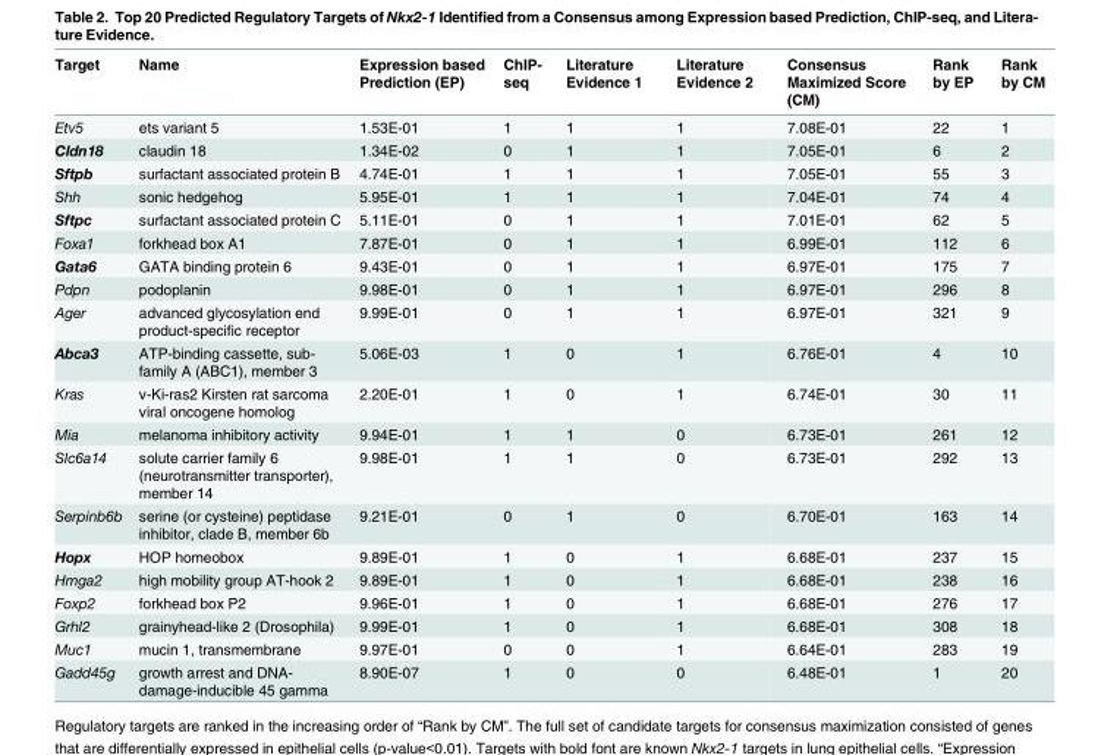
<table><thead><tr><td>Target</td><td>Name</td><td>Expression based Prediction (EP)</td><td>ChIP- seq</td><td>Literature Evidence 1</td><td>Literature Evidence 2</td><td>Consensus Maximized Score (CM)</td><td>Rank by EP</td><td>Rank by CM</td></tr></thead><tbody><tr><td>Etv5</td><td>ets variant 5</td><td>1.53E-01</td><td>1</td><td>1</td><td>1</td><td>7.08E-01</td><td>22</td><td>1</td></tr><tr><td>Cldn18</td><td>claudin 18</td><td>1.34E-02</td><td>0</td><td>1</td><td>1</td><td>7.05E-01</td><td>6</td><td>2</td></tr><tr><td>Sftpb</td><td>surfactant associated protein B</td><td>4.74E-01</td><td>1</td><td>1</td><td>1</td><td>7.05E-01</td><td>55</td><td>3</td></tr><tr><td>Shh</td><td>sonic hedgehog</td><td>5.95E-01</td><td>1</td><td>1</td><td>1</td><td>7.04E-01</td><td>74</td><td>4</td></tr><tr><td>Sftpc</td><td>surfactant associated protein C</td><td>5.11E-01</td><td>0</td><td>1</td><td>1</td><td>7.01E-01</td><td>62</td><td>5</td></tr><tr><td>Foxa1</td><td>forkhead box A1</td><td>7.87E-01</td><td>0</td><td>1</td><td>1</td><td>6.99E-01</td><td>112</td><td>6</td></tr><tr><td>Gata6</td><td>GATA binding protein 6</td><td>9.43E-01</td><td>0</td><td>1</td><td>1</td><td>6.97E-01</td><td>175</td><td>7</td></tr><tr><td>Pdpn</td><td>podoplanin</td><td>9.98E-01</td><td>0</td><td>1</td><td>1</td><td>6.97E-01</td><td>296</td><td>8</td></tr><tr><td>Ager</td><td>advanced glycosylation end product-specific receptor</td><td>9.99E-01</td><td>0</td><td>1</td><td>1</td><td>6.97E-01</td><td>321</td><td>9</td></tr><tr><td>Abca3</td><td>ATP-binding cassette, sub- family A (ABC1), member 3</td><td>5.06E-03</td><td>1</td><td>0</td><td>1</td><td>6.76E-01</td><td>4</td><td>10</td></tr><tr><td>Kras</td><td>v-Ki-ras2 Kirsten rat sarcoma viral oncogene homolog</td><td>2.20E-01</td><td>1</td><td>0</td><td>1</td><td>6.74E-01</td><td>30</td><td>11</td></tr><tr><td>Mia</td><td>melanoma inhibitory activity</td><td>9.94E-01</td><td>1</td><td>1</td><td>0</td><td>6.73E-01</td><td>261</td><td>12</td></tr><tr><td>Slc6a14</td><td>solute carrier family 6 (neurotransmitter transporter), member 14</td><td>9.98E-01</td><td>1</td><td>1</td><td>0</td><td>6.73E-01</td><td>292</td><td>13</td></tr><tr><td>Serpinb6b</td><td>serine (or cysteine) peptidase inhibitor, clade B, member 6b</td><td>9.21E-01</td><td>0</td><td>1</td><td>0</td><td>6.70E-01</td><td>163</td><td>14</td></tr><tr><td>Hopx</td><td>HOP homeobox</td><td>9.89E-01</td><td>1</td><td>0</td><td>1</td><td>6.68E-01</td><td>237</td><td>15</td></tr><tr><td>Hmga2</td><td>high mobility group AT-hook 2</td><td>9.89E-01</td><td>1</td><td>0</td><td>1</td><td>6.68E-01</td><td>238</td><td>16</td></tr><tr><td>Foxp2</td><td>forkhead box P2</td><td>9.96E-01</td><td>1</td><td>0</td><td>1</td><td>6.68E-01</td><td>276</td><td>17</td></tr><tr><td>Grhl2</td><td>grainyhead-like 2 (Drosophila)</td><td>9.99E-01</td><td>1</td><td>0</td><td>1</td><td>6.68E-01</td><td>308</td><td>18</td></tr><tr><td>Muc1</td><td>mucin 1, transmembrane</td><td>9.97E-01</td><td>0</td><td>0</td><td>1</td><td>6.64E-01</td><td>283</td><td>19</td></tr><tr><td>Gadd45g</td><td>growth arrest and DNA- damage-inducible 45 gamma</td><td>8.90E-07</td><td>1</td><td>0</td><td>0</td><td>6.48E-01</td><td>1</td><td>20</td></tr></tbody></table>